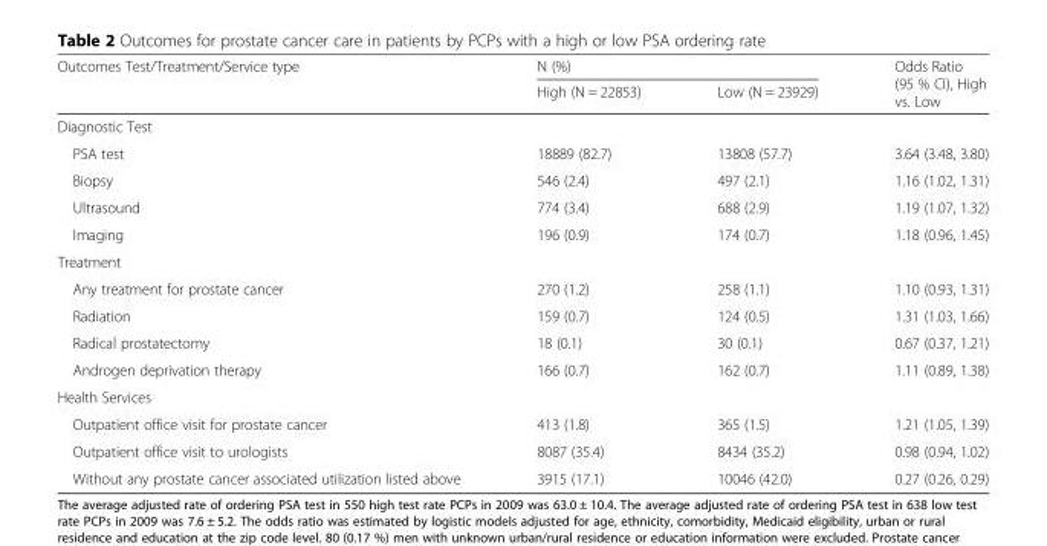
<table><thead><tr><td rowspan="2">Outcomes Test/Treatment/Service type</td><td colspan="2">N (%)</td><td rowspan="2">Odds Ratio (95 % CI), High vs. Low</td></tr><tr><td>High (N = 22853)</td><td>Low (N = 23929)</td></tr></thead><tbody><tr><td colspan="4">Diagnostic Test</td></tr><tr><td>PSA test</td><td>18889 (82.7)</td><td>13808 (57.7)</td><td>3.64 (3.48, 3.80)</td></tr><tr><td>Biopsy</td><td>546 (2.4)</td><td>497 (2.1)</td><td>1.16 (1.02, 1.31)</td></tr><tr><td>Ultrasound</td><td>774 (3.4)</td><td>688 (2.9)</td><td>1.19 (1.07, 1.32)</td></tr><tr><td>Imaging</td><td>196 (0.9)</td><td>174 (0.7)</td><td>1.18 (0.96, 1.45)</td></tr><tr><td colspan="4">Treatment</td></tr><tr><td>Any treatment for prostate cancer</td><td>270 (1.2)</td><td>258 (1.1)</td><td>1.10 (0.93, 1.31)</td></tr><tr><td>Radiation</td><td>159 (0.7)</td><td>124 (0.5)</td><td>1.31 (1.03, 1.66)</td></tr><tr><td>Radical prostatectomy</td><td>18 (0.1)</td><td>30 (0.1)</td><td>0.67 (0.37, 1.21)</td></tr><tr><td>Androgen deprivation therapy</td><td>166 (0.7)</td><td>162 (0.7)</td><td>1.11 (0.89, 1.38)</td></tr><tr><td colspan="4">Health Services</td></tr><tr><td>Outpatient office visit for prostate cancer</td><td>413 (1.8)</td><td>365 (1.5)</td><td>1.21 (1.05, 1.39)</td></tr><tr><td>Outpatient office visit to urologists</td><td>8087 (35.4)</td><td>8434 (35.2)</td><td>0.98 (0.94, 1.02)</td></tr><tr><td>Without any prostate cancer associated utilization listed above</td><td>3915 (17.1)</td><td>10046 (42.0)</td><td>0.27 (0.26, 0.29)</td></tr></tbody></table>